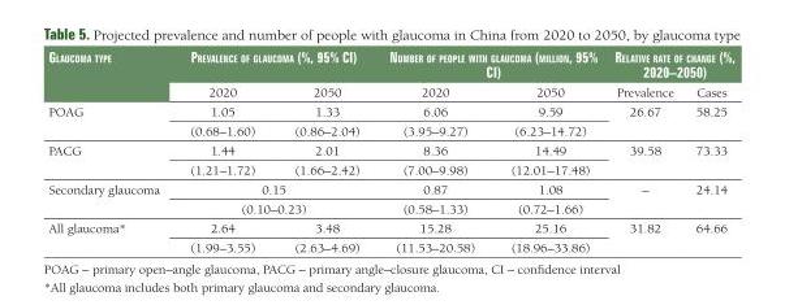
<table><thead><tr><td rowspan="2">glaucoma type</td><td colspan="2">pRevalence of glaucoma (%, 95% ci)</td><td colspan="2">numbeR of people with glaucoma (million, 95% ci)</td><td colspan="2">Relative Rate of change (%, 2020–2050)</td></tr><tr><td>2020</td><td>2050</td><td>2020</td><td>2050</td><td>Prevalence</td><td>Cases</td></tr></thead><tbody><tr><td rowspan="2">POAG</td><td>1.05</td><td>1.33</td><td>6.06</td><td>9.59</td><td rowspan="2">26.67</td><td rowspan="2">58.25</td></tr><tr><td>(0.68–1.60)</td><td>(0.86–2.04)</td><td>(3.95–9.27)</td><td>(6.23–14.72)</td></tr><tr><td rowspan="2">PACG</td><td>1.44</td><td>2.01</td><td>8.36</td><td>14.49</td><td rowspan="2">39.58</td><td rowspan="2">73.33</td></tr><tr><td>(1.21–1.72)</td><td>(1.66–2.42)</td><td>(7.00–9.98)</td><td>(12.01–17.48)</td></tr><tr><td rowspan="2">Secondary glaucoma</td><td colspan="2">0.15</td><td>0.87</td><td>1.08</td><td rowspan="2">–</td><td rowspan="2">24.14</td></tr><tr><td colspan="2">(0.10–0.23)</td><td>(0.58–1.33)</td><td>(0.72–1.66)</td></tr><tr><td rowspan="2">All glaucoma*</td><td>2.64</td><td>3.48</td><td>15.28</td><td>25.16</td><td rowspan="2">31.82</td><td rowspan="2">64.66</td></tr><tr><td>(1.99–3.55)</td><td>(2.63–4.69)</td><td>(11.53–20.58)</td><td>(18.96–33.86)</td></tr></tbody></table>